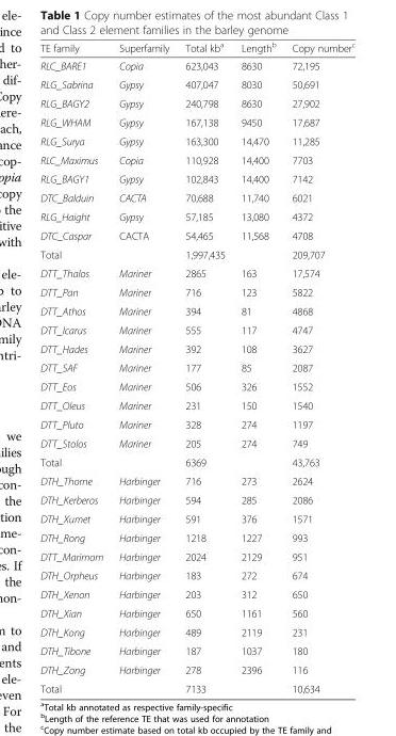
<table><thead><tr><td>TE family</td><td>Superfamily</td><td>Total kb<sup>a</sup></td><td>Length<sup>b</sup></td><td>Copy number<sup>c</sup></td></tr></thead><tbody><tr><td>RLC_BARE1</td><td>Copia</td><td>623,043</td><td>8630</td><td>72,195</td></tr><tr><td>RLG_Sabrina</td><td>Gypsy</td><td>407,047</td><td>8030</td><td>50,691</td></tr><tr><td>RLG_BAGY2</td><td>Gypsy</td><td>240,798</td><td>8630</td><td>27,902</td></tr><tr><td>RLG_WHAM</td><td>Gypsy</td><td>167,138</td><td>9450</td><td>17,687</td></tr><tr><td>RLG_Surya</td><td>Gypsy</td><td>163,300</td><td>14,470</td><td>11,285</td></tr><tr><td>RLC_Maximus</td><td>Copia</td><td>110,928</td><td>14,400</td><td>7703</td></tr><tr><td>RLG_BAGY1</td><td>Gypsy</td><td>102,843</td><td>14,400</td><td>7142</td></tr><tr><td>DTC_Balduin</td><td>CACTA</td><td>70,688</td><td>11,740</td><td>6021</td></tr><tr><td>RLG_Haight</td><td>Gypsy</td><td>57,185</td><td>13,080</td><td>4372</td></tr><tr><td>DTC_Caspar</td><td>CACTA</td><td>54,465</td><td>11,568</td><td>4708</td></tr><tr><td>Total</td><td></td><td>1,997,435</td><td></td><td>209,707</td></tr><tr><td>DTT_Thalos</td><td>Mariner</td><td>2865</td><td>163</td><td>17,574</td></tr><tr><td>DTT_Pan</td><td>Mariner</td><td>716</td><td>123</td><td>5822</td></tr><tr><td>DTT_Athos</td><td>Mariner</td><td>394</td><td>81</td><td>4868</td></tr><tr><td>DTT_Icarus</td><td>Mariner</td><td>555</td><td>117</td><td>4747</td></tr><tr><td>DTT_Hades</td><td>Mariner</td><td>392</td><td>108</td><td>3627</td></tr><tr><td>DTT_SAF</td><td>Mariner</td><td>177</td><td>85</td><td>2087</td></tr><tr><td>DTT_Eos</td><td>Mariner</td><td>506</td><td>326</td><td>1552</td></tr><tr><td>DTT_Oleus</td><td>Mariner</td><td>231</td><td>150</td><td>1540</td></tr><tr><td>DTT_Pluto</td><td>Mariner</td><td>328</td><td>274</td><td>1197</td></tr><tr><td>DTT_Stolos</td><td>Mariner</td><td>205</td><td>274</td><td>749</td></tr><tr><td>Total</td><td></td><td>6369</td><td></td><td>43,763</td></tr><tr><td>DTH_Thorne</td><td>Harbinger</td><td>716</td><td>273</td><td>2624</td></tr><tr><td>DTH_Kerberos</td><td>Harbinger</td><td>594</td><td>285</td><td>2086</td></tr><tr><td>DTH_Xumet</td><td>Harbinger</td><td>591</td><td>376</td><td>1571</td></tr><tr><td>DTH_Rong</td><td>Harbinger</td><td>1218</td><td>1227</td><td>993</td></tr><tr><td>DTT_Marimom</td><td>Harbinger</td><td>2024</td><td>2129</td><td>951</td></tr><tr><td>DTH_Orpheus</td><td>Harbinger</td><td>183</td><td>272</td><td>674</td></tr><tr><td>DTH_Xenon</td><td>Harbinger</td><td>203</td><td>312</td><td>650</td></tr><tr><td>DTH_Xian</td><td>Harbinger</td><td>650</td><td>1161</td><td>560</td></tr><tr><td>DTH_Kong</td><td>Harbinger</td><td>489</td><td>2119</td><td>231</td></tr><tr><td>DTH_Tibone</td><td>Harbinger</td><td>187</td><td>1037</td><td>180</td></tr><tr><td>DTH_Zong</td><td>Harbinger</td><td>278</td><td>2396</td><td>116</td></tr><tr><td>Total</td><td></td><td>7133</td><td></td><td>10,634</td></tr></tbody></table>